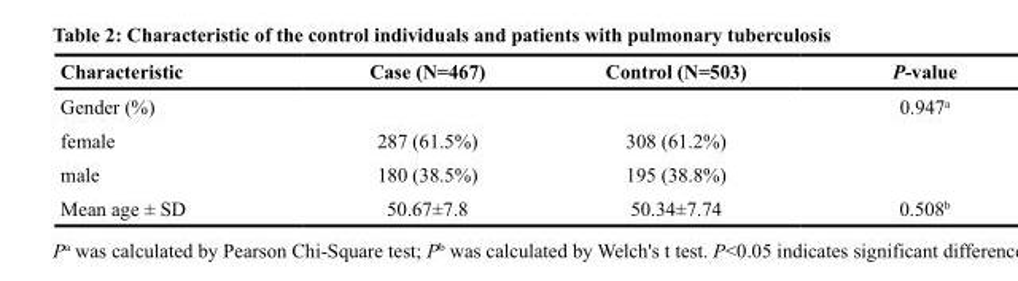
<table><thead><tr><td>Characteristic</td><td>Case (N=467)</td><td>Control (N=503)</td><td>P-value</td></tr></thead><tbody><tr><td>Gender (%)</td><td></td><td></td><td>0.947<sup>a</sup></td></tr><tr><td>female</td><td>287 (61.5%)</td><td>308 (61.2%)</td><td></td></tr><tr><td>male</td><td>180 (38.5%)</td><td>195 (38.8%)</td><td></td></tr><tr><td>Mean age ± SD</td><td>50.67±7.8</td><td>50.34±7.74</td><td>0.508<sup>b</sup></td></tr></tbody></table>